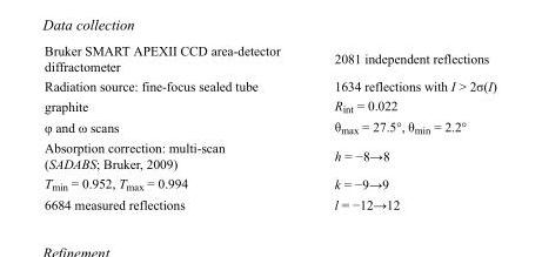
<table><tbody><tr><td>Bruker SMART APEXII CCD area-detector diffractometer</td><td>2081 independent reflections</td></tr><tr><td>Radiation source: fine-focus sealed tube</td><td>1634 reflections with I &gt; 2σ(I)</td></tr><tr><td>graphite</td><td>R<sub>int</sub> = 0.022</td></tr><tr><td>φ and ω scans</td><td>θ<sub>max</sub> = 27.5°, θ<sub>min</sub> = 2.2°</td></tr><tr><td>Absorption correction: multi-scan (SADABS; Bruker, 2009)</td><td>h = −8→8</td></tr><tr><td>T<sub>min</sub> = 0.952, T<sub>max</sub> = 0.994</td><td>k = −9→9</td></tr><tr><td>6684 measured reflections</td><td>l = −12→12</td></tr></tbody></table>